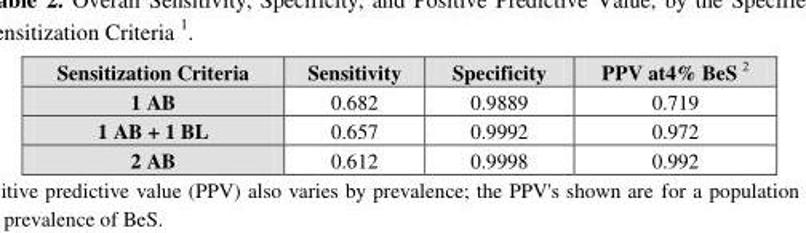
<table><thead><tr><td>Sensitization Criteria</td><td>Sensitivity</td><td>Specificity</td><td>PPV at4% BeS 2</td></tr></thead><tbody><tr><td>1 AB</td><td>0.682</td><td>0.9889</td><td>0.719</td></tr><tr><td>1 AB + 1 BL</td><td>0.657</td><td>0.9992</td><td>0.972</td></tr><tr><td>2 AB</td><td>0.612</td><td>0.9998</td><td>0.992</td></tr></tbody></table>